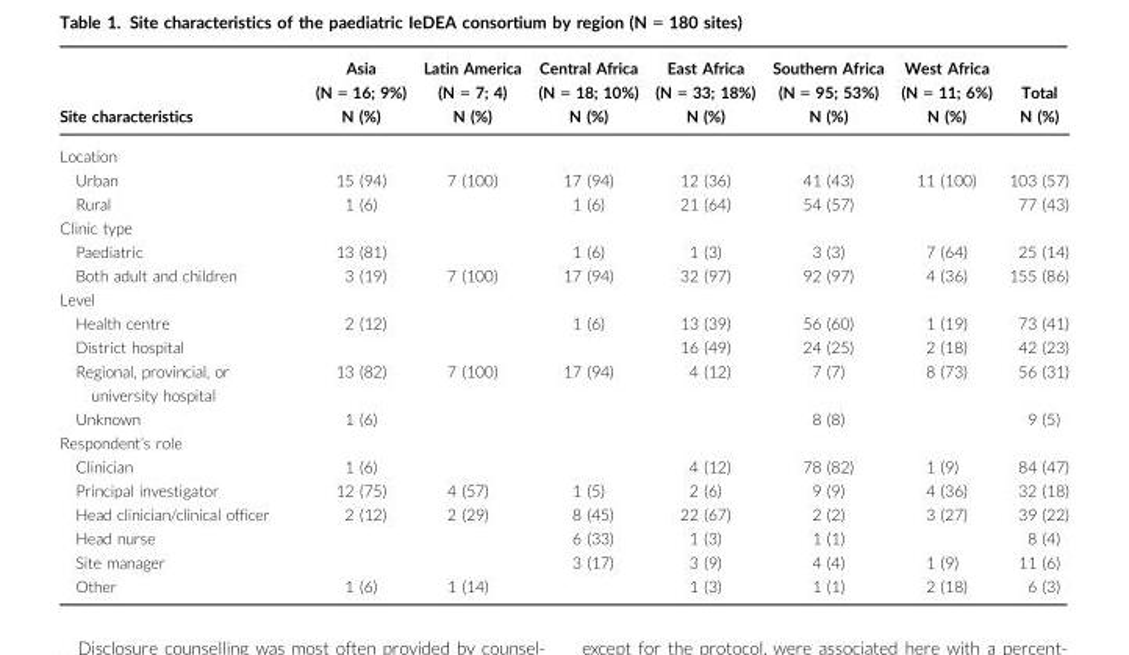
<table><thead><tr><td rowspan="2">Site characteristics</td><td rowspan="2">Asia (N = 16; 9%) N (%)</td><td rowspan="2">Latin America (N = 7; 4) N (%)</td><td rowspan="2">Central Africa (N = 18; 10%) N (%)</td><td rowspan="2">East Africa (N = 33; 18%) N (%)</td><td rowspan="2">Southern Africa (N = 95; 53%) N (%)</td><td rowspan="2">West Africa (N = 11; 6%) N (%)</td><td rowspan="2">Total N (%)</td></tr><tr></tr></thead><tbody><tr><td colspan="8">Location</td></tr><tr><td>Urban</td><td>15 (94)</td><td>7 (100)</td><td>17 (94)</td><td>12 (36)</td><td>41 (43)</td><td>11 (100)</td><td>103 (57)</td></tr><tr><td>Rural</td><td>1 (6)</td><td></td><td>1 (6)</td><td>21 (64)</td><td>54 (57)</td><td></td><td>77 (43)</td></tr><tr><td colspan="8">Clinic type</td></tr><tr><td>Paediatric</td><td>13 (81)</td><td></td><td>1 (6)</td><td>1 (3)</td><td>3 (3)</td><td>7 (64)</td><td>25 (14)</td></tr><tr><td>Both adult and children</td><td>3 (19)</td><td>7 (100)</td><td>17 (94)</td><td>32 (97)</td><td>92 (97)</td><td>4 (36)</td><td>155 (86)</td></tr><tr><td colspan="8">Level</td></tr><tr><td>Health centre</td><td>2 (12)</td><td></td><td>1 (6)</td><td>13 (39)</td><td>56 (60)</td><td>1 (19)</td><td>73 (41)</td></tr><tr><td>District hospital</td><td></td><td></td><td></td><td>16 (49)</td><td>24 (25)</td><td>2 (18)</td><td>42 (23)</td></tr><tr><td>Regional, provincial, or university hospital</td><td>13 (82)</td><td>7 (100)</td><td>17 (94)</td><td>4 (12)</td><td>7 (7)</td><td>8 (73)</td><td>56 (31)</td></tr><tr><td>Unknown</td><td>1 (6)</td><td></td><td></td><td></td><td>8 (8)</td><td></td><td>9 (5)</td></tr><tr><td colspan="8">Respondent’s role</td></tr><tr><td>Clinician</td><td>1 (6)</td><td></td><td></td><td>4 (12)</td><td>78 (82)</td><td>1 (9)</td><td>84 (47)</td></tr><tr><td>Principal investigator</td><td>12 (75)</td><td>4 (57)</td><td>1 (5)</td><td>2 (6)</td><td>9 (9)</td><td>4 (36)</td><td>32 (18)</td></tr><tr><td>Head clinician/clinical officer</td><td>2 (12)</td><td>2 (29)</td><td>8 (45)</td><td>22 (67)</td><td>2 (2)</td><td>3 (27)</td><td>39 (22)</td></tr><tr><td>Head nurse</td><td></td><td></td><td>6 (33)</td><td>1 (3)</td><td>1 (1)</td><td></td><td>8 (4)</td></tr><tr><td>Site manager</td><td></td><td></td><td>3 (17)</td><td>3 (9)</td><td>4 (4)</td><td>1 (9)</td><td>11 (6)</td></tr><tr><td>Other</td><td>1 (6)</td><td>1 (14)</td><td></td><td>1 (3)</td><td>1 (1)</td><td>2 (18)</td><td>6 (3)</td></tr></tbody></table>